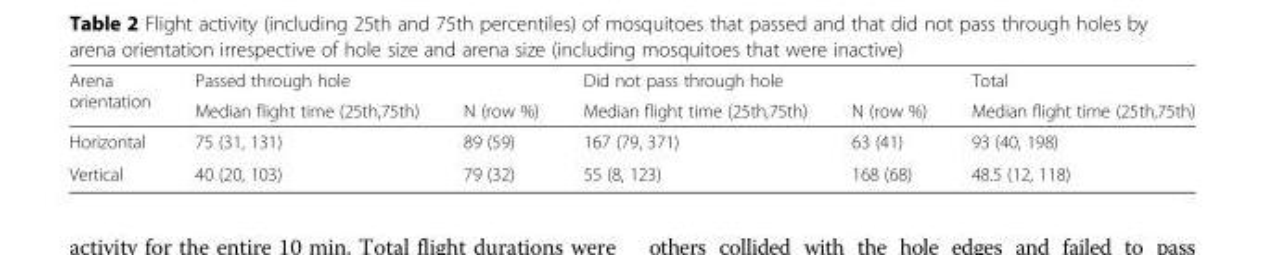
<table><thead><tr><td rowspan="2">Arena orientation</td><td colspan="2">Passed through hole</td><td colspan="2">Did not pass through hole</td><td rowspan="2">Total Median flight time (25th,75th)</td></tr><tr><td>Median flight time (25th,75th)</td><td>N (row %)</td><td>Median flight time (25th,75th)</td><td>N (row %)</td></tr></thead><tbody><tr><td>Horizontal</td><td>75 (31, 131)</td><td>89 (59)</td><td>167 (79, 371)</td><td>63 (41)</td><td>93 (40, 198)</td></tr><tr><td>Vertical</td><td>40 (20, 103)</td><td>79 (32)</td><td>55 (8, 123)</td><td>168 (68)</td><td>48.5 (12, 118)</td></tr></tbody></table>